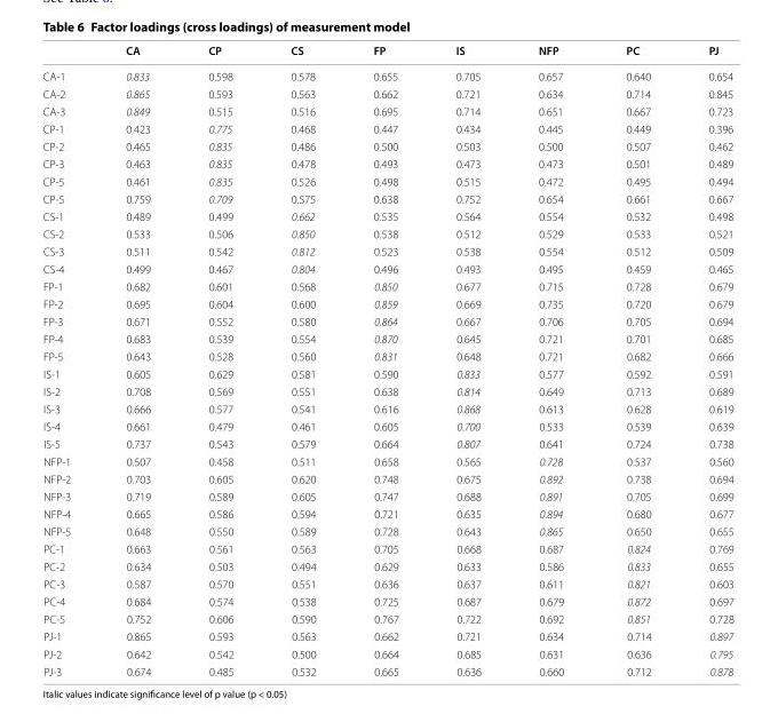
<table><thead><tr><td></td><td>CA</td><td>CP</td><td>CS</td><td>FP</td><td>IS</td><td>NFP</td><td>PC</td><td>PJ</td></tr></thead><tbody><tr><td>CA-1</td><td>0.833</td><td>0.598</td><td>0.578</td><td>0.655</td><td>0.705</td><td>0.657</td><td>0.640</td><td>0.654</td></tr><tr><td>CA-2</td><td>0.865</td><td>0.593</td><td>0.563</td><td>0.662</td><td>0.721</td><td>0.634</td><td>0.714</td><td>0.845</td></tr><tr><td>CA-3</td><td>0.849</td><td>0.515</td><td>0.516</td><td>0.695</td><td>0.714</td><td>0.651</td><td>0.667</td><td>0.723</td></tr><tr><td>CP-1</td><td>0.423</td><td>0.775</td><td>0.468</td><td>0.447</td><td>0.434</td><td>0.445</td><td>0.449</td><td>0.396</td></tr><tr><td>CP-2</td><td>0.465</td><td>0.835</td><td>0.486</td><td>0.500</td><td>0.503</td><td>0.500</td><td>0.507</td><td>0.462</td></tr><tr><td>CP-3</td><td>0.463</td><td>0.835</td><td>0.478</td><td>0.493</td><td>0.473</td><td>0.473</td><td>0.501</td><td>0.489</td></tr><tr><td>CP-5</td><td>0.461</td><td>0.835</td><td>0.526</td><td>0.498</td><td>0.515</td><td>0.472</td><td>0.495</td><td>0.494</td></tr><tr><td>CP-5</td><td>0.759</td><td>0.709</td><td>0.575</td><td>0.638</td><td>0.752</td><td>0.654</td><td>0.661</td><td>0.667</td></tr><tr><td>CS-1</td><td>0.489</td><td>0.499</td><td>0.662</td><td>0.535</td><td>0.564</td><td>0.554</td><td>0.532</td><td>0.498</td></tr><tr><td>CS-2</td><td>0.533</td><td>0.506</td><td>0.850</td><td>0.538</td><td>0.512</td><td>0.529</td><td>0.533</td><td>0.521</td></tr><tr><td>CS-3</td><td>0.511</td><td>0.542</td><td>0.812</td><td>0.523</td><td>0.538</td><td>0.554</td><td>0.512</td><td>0.509</td></tr><tr><td>CS-4</td><td>0.499</td><td>0.467</td><td>0.804</td><td>0.496</td><td>0.493</td><td>0.495</td><td>0.459</td><td>0.465</td></tr><tr><td>FP-1</td><td>0.682</td><td>0.601</td><td>0.568</td><td>0.850</td><td>0.677</td><td>0.715</td><td>0.728</td><td>0.679</td></tr><tr><td>FP-2</td><td>0.695</td><td>0.604</td><td>0.600</td><td>0.859</td><td>0.669</td><td>0.735</td><td>0.720</td><td>0.679</td></tr><tr><td>FP-3</td><td>0.671</td><td>0.552</td><td>0.580</td><td>0.864</td><td>0.667</td><td>0.706</td><td>0.705</td><td>0.694</td></tr><tr><td>FP-4</td><td>0.683</td><td>0.539</td><td>0.554</td><td>0.870</td><td>0.645</td><td>0.721</td><td>0.701</td><td>0.685</td></tr><tr><td>FP-5</td><td>0.643</td><td>0.528</td><td>0.560</td><td>0.831</td><td>0.648</td><td>0.721</td><td>0.682</td><td>0.666</td></tr><tr><td>IS-1</td><td>0.605</td><td>0.629</td><td>0.581</td><td>0.590</td><td>0.833</td><td>0.577</td><td>0.592</td><td>0.591</td></tr><tr><td>IS-2</td><td>0.708</td><td>0.569</td><td>0.551</td><td>0.638</td><td>0.814</td><td>0.649</td><td>0.713</td><td>0.689</td></tr><tr><td>IS-3</td><td>0.666</td><td>0.577</td><td>0.541</td><td>0.616</td><td>0.868</td><td>0.613</td><td>0.628</td><td>0.619</td></tr><tr><td>IS-4</td><td>0.661</td><td>0.479</td><td>0.461</td><td>0.605</td><td>0.700</td><td>0.533</td><td>0.539</td><td>0.639</td></tr><tr><td>IS-5</td><td>0.737</td><td>0.543</td><td>0.579</td><td>0.664</td><td>0.807</td><td>0.641</td><td>0.724</td><td>0.738</td></tr><tr><td>NFP-1</td><td>0.507</td><td>0.458</td><td>0.511</td><td>0.658</td><td>0.565</td><td>0.728</td><td>0.537</td><td>0.560</td></tr><tr><td>NFP-2</td><td>0.703</td><td>0.605</td><td>0.620</td><td>0.748</td><td>0.675</td><td>0.892</td><td>0.738</td><td>0.694</td></tr><tr><td>NFP-3</td><td>0.719</td><td>0.589</td><td>0.605</td><td>0.747</td><td>0.688</td><td>0.891</td><td>0.705</td><td>0.699</td></tr><tr><td>NFP-4</td><td>0.665</td><td>0.586</td><td>0.594</td><td>0.721</td><td>0.635</td><td>0.894</td><td>0.680</td><td>0.677</td></tr><tr><td>NFP-5</td><td>0.648</td><td>0.550</td><td>0.589</td><td>0.728</td><td>0.643</td><td>0.865</td><td>0.650</td><td>0.655</td></tr><tr><td>PC-1</td><td>0.663</td><td>0.561</td><td>0.563</td><td>0.705</td><td>0.668</td><td>0.687</td><td>0.824</td><td>0.769</td></tr><tr><td>PC-2</td><td>0.634</td><td>0.503</td><td>0.494</td><td>0.629</td><td>0.633</td><td>0.586</td><td>0.833</td><td>0.655</td></tr><tr><td>PC-3</td><td>0.587</td><td>0.570</td><td>0.551</td><td>0.636</td><td>0.637</td><td>0.611</td><td>0.821</td><td>0.603</td></tr><tr><td>PC-4</td><td>0.684</td><td>0.574</td><td>0.538</td><td>0.725</td><td>0.687</td><td>0.679</td><td>0.872</td><td>0.697</td></tr><tr><td>PC-5</td><td>0.752</td><td>0.606</td><td>0.590</td><td>0.767</td><td>0.722</td><td>0.692</td><td>0.851</td><td>0.728</td></tr><tr><td>PJ-1</td><td>0.865</td><td>0.593</td><td>0.563</td><td>0.662</td><td>0.721</td><td>0.634</td><td>0.714</td><td>0.897</td></tr><tr><td>PJ-2</td><td>0.642</td><td>0.542</td><td>0.500</td><td>0.664</td><td>0.685</td><td>0.631</td><td>0.636</td><td>0.795</td></tr><tr><td>PJ-3</td><td>0.674</td><td>0.485</td><td>0.532</td><td>0.665</td><td>0.636</td><td>0.660</td><td>0.712</td><td>0.878</td></tr></tbody></table>